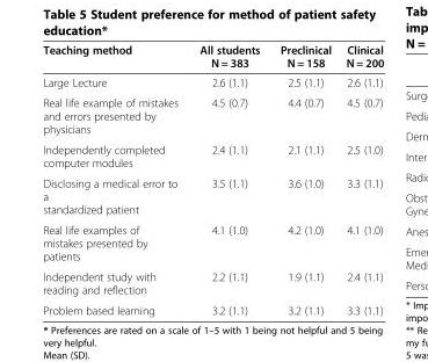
<table><thead><tr><td>Teaching method</td><td>All students N = 383</td><td>Preclinical N = 158</td><td>Clinical N = 200</td></tr></thead><tbody><tr><td>Large Lecture</td><td>2.6 (1.1)</td><td>2.5 (1.1)</td><td>2.6 (1.1)</td></tr><tr><td>Real life example of mistakes and errors presented by physicians</td><td>4.5 (0.7)</td><td>4.4 (0.7)</td><td>4.5 (0.7)</td></tr><tr><td>Independently completed computer modules</td><td>2.4 (1.1)</td><td>2.1 (1.1)</td><td>2.5 (1.0)</td></tr><tr><td>Disclosing a medical error to a standardized patient</td><td>3.5 (1.1)</td><td>3.6 (1.0)</td><td>3.3 (1.1)</td></tr><tr><td>Real life examples of mistakes presented by patients</td><td>4.1 (1.0)</td><td>4.2 (1.0)</td><td>4.1 (1.0)</td></tr><tr><td>Independent study with reading and reflection</td><td>2.2 (1.1)</td><td>1.9 (1.1)</td><td>2.4 (1.1)</td></tr><tr><td>Problem based learning</td><td>3.2 (1.1)</td><td>3.2 (1.1)</td><td>3.3 (1.1)</td></tr></tbody></table>